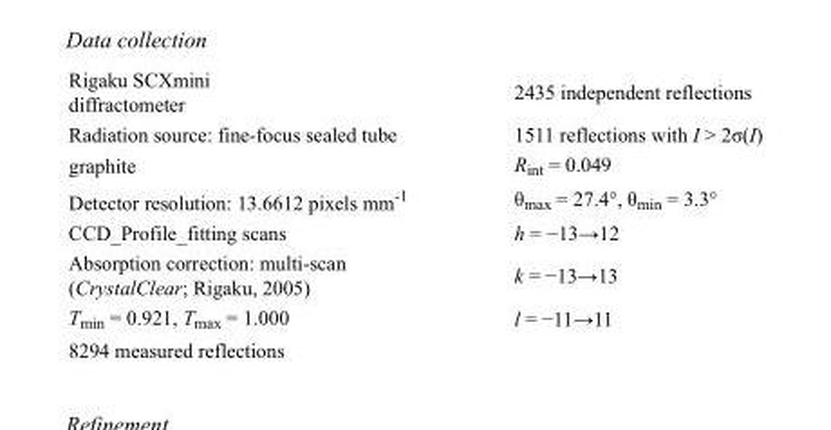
<table><tbody><tr><td>Rigaku SCXmini diffractometer</td><td>2435 independent reflections</td></tr><tr><td>Radiation source: fine-focus sealed tube</td><td>1511 reflections with I &gt; 2σ(I)</td></tr><tr><td>graphite</td><td>R<sub>int</sub> = 0.049</td></tr><tr><td>Detector resolution: 13.6612 pixels mm<sup>-1</sup></td><td>θ<sub>max</sub> = 27.4°, θ<sub>min</sub> = 3.3°</td></tr><tr><td>CCD_Profile_fitting scans</td><td>h = −13→12</td></tr><tr><td>Absorption correction: multi-scan (CrystalClear; Rigaku, 2005)</td><td>k = −13→13</td></tr><tr><td>T<sub>min</sub> = 0.921, T<sub>max</sub> = 1.000</td><td>l = −11→11</td></tr><tr><td>8294 measured reflections</td><td></td></tr></tbody></table>